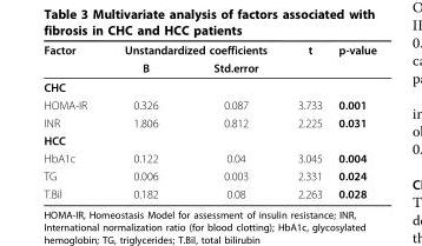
<table><thead><tr><td rowspan="2">Factor</td><td colspan="2">Unstandardized coefficients</td><td rowspan="2">t</td><td rowspan="2">p-value</td></tr><tr><td>B</td><td>Std.error</td></tr></thead><tbody><tr><td colspan="5">CHC</td></tr><tr><td>HOMA-IR</td><td>0.326</td><td>0.087</td><td>3.733</td><td>0.001</td></tr><tr><td>INR</td><td>1.806</td><td>0.812</td><td>2.225</td><td>0.031</td></tr><tr><td colspan="5">HCC</td></tr><tr><td>HbA1c</td><td>0.122</td><td>0.04</td><td>3.045</td><td>0.004</td></tr><tr><td>TG</td><td>0.006</td><td>0.003</td><td>2.331</td><td>0.024</td></tr><tr><td>T.Bil</td><td>0.182</td><td>0.08</td><td>2.263</td><td>0.028</td></tr></tbody></table>